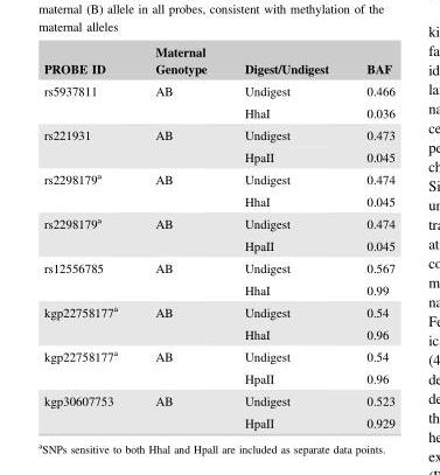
<table><thead><tr><td>PROBE ID</td><td>Maternal Genotype</td><td>Digest/Undigest</td><td>BAF</td></tr></thead><tbody><tr><td rowspan="2">rs5937811</td><td rowspan="2">AB</td><td>Undigest</td><td>0.466</td></tr><tr><td>HhaI</td><td>0.036</td></tr><tr><td rowspan="2">rs221931</td><td rowspan="2">AB</td><td>Undigest</td><td>0.473</td></tr><tr><td>HpaII</td><td>0.045</td></tr><tr><td rowspan="2">rs2298179<sup>a</sup></td><td rowspan="2">AB</td><td>Undigest</td><td>0.474</td></tr><tr><td>HhaI</td><td>0.045</td></tr><tr><td rowspan="2">rs2298179<sup>a</sup></td><td rowspan="2">AB</td><td>Undigest</td><td>0.474</td></tr><tr><td>HpaII</td><td>0.045</td></tr><tr><td rowspan="2">rs12556785</td><td rowspan="2">AB</td><td>Undigest</td><td>0.567</td></tr><tr><td>HhaI</td><td>0.99</td></tr><tr><td rowspan="2">kgp22758177<sup>a</sup></td><td rowspan="2">AB</td><td>Undigest</td><td>0.54</td></tr><tr><td>HhaI</td><td>0.96</td></tr><tr><td rowspan="2">kgp22758177<sup>a</sup></td><td rowspan="2">AB</td><td>Undigest</td><td>0.54</td></tr><tr><td>HpaII</td><td>0.96</td></tr><tr><td rowspan="2">kgp30607753</td><td rowspan="2">AB</td><td>Undigest</td><td>0.523</td></tr><tr><td>HpaII</td><td>0.929</td></tr></tbody></table>